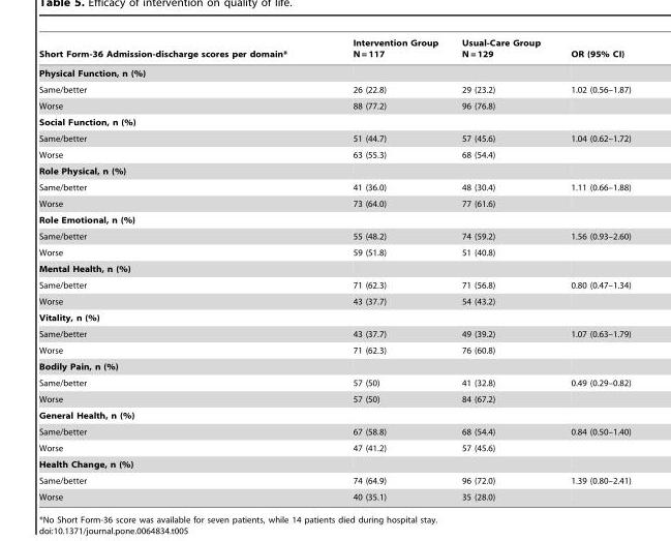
<table><thead><tr><td>Short Form-36 Admission-discharge scores per domain*</td><td>Intervention Group N = 117</td><td>Usual-Care Group N = 129</td><td>OR (95% CI)</td></tr></thead><tbody><tr><td colspan="4">Physical Function, n (%)</td></tr><tr><td>Same/better</td><td>26 (22.8)</td><td>29 (23.2)</td><td>1.02 (0.56–1.87)</td></tr><tr><td>Worse</td><td>88 (77.2)</td><td>96 (76.8)</td><td></td></tr><tr><td colspan="4">Social Function, n (%)</td></tr><tr><td>Same/better</td><td>51 (44.7)</td><td>57 (45.6)</td><td>1.04 (0.62–1.72)</td></tr><tr><td>Worse</td><td>63 (55.3)</td><td>68 (54.4)</td><td></td></tr><tr><td colspan="4">Role Physical, n (%)</td></tr><tr><td>Same/better</td><td>41 (36.0)</td><td>48 (30.4)</td><td>1.11 (0.66–1.88)</td></tr><tr><td>Worse</td><td>73 (64.0)</td><td>77 (61.6)</td><td></td></tr><tr><td colspan="4">Role Emotional, n (%)</td></tr><tr><td>Same/better</td><td>55 (48.2)</td><td>74 (59.2)</td><td>1.56 (0.93–2.60)</td></tr><tr><td>Worse</td><td>59 (51.8)</td><td>51 (40.8)</td><td></td></tr><tr><td colspan="4">Mental Health, n (%)</td></tr><tr><td>Same/better</td><td>71 (62.3)</td><td>71 (56.8)</td><td>0.80 (0.47–1.34)</td></tr><tr><td>Worse</td><td>43 (37.7)</td><td>54 (43.2)</td><td></td></tr><tr><td colspan="4">Vitality, n (%)</td></tr><tr><td>Same/better</td><td>43 (37.7)</td><td>49 (39.2)</td><td>1.07 (0.63–1.79)</td></tr><tr><td>Worse</td><td>71 (62.3)</td><td>76 (60.8)</td><td></td></tr><tr><td colspan="4">Bodily Pain, n (%)</td></tr><tr><td>Same/better</td><td>57 (50)</td><td>41 (32.8)</td><td>0.49 (0.29–0.82)</td></tr><tr><td>Worse</td><td>57 (50)</td><td>84 (67.2)</td><td></td></tr><tr><td colspan="4">General Health, n (%)</td></tr><tr><td>Same/better</td><td>67 (58.8)</td><td>68 (54.4)</td><td>0.84 (0.50–1.40)</td></tr><tr><td>Worse</td><td>47 (41.2)</td><td>57 (45.6)</td><td></td></tr><tr><td colspan="4">Health Change, n (%)</td></tr><tr><td>Same/better</td><td>74 (64.9)</td><td>96 (72.0)</td><td>1.39 (0.80–2.41)</td></tr><tr><td>Worse</td><td>40 (35.1)</td><td>35 (28.0)</td><td></td></tr></tbody></table>